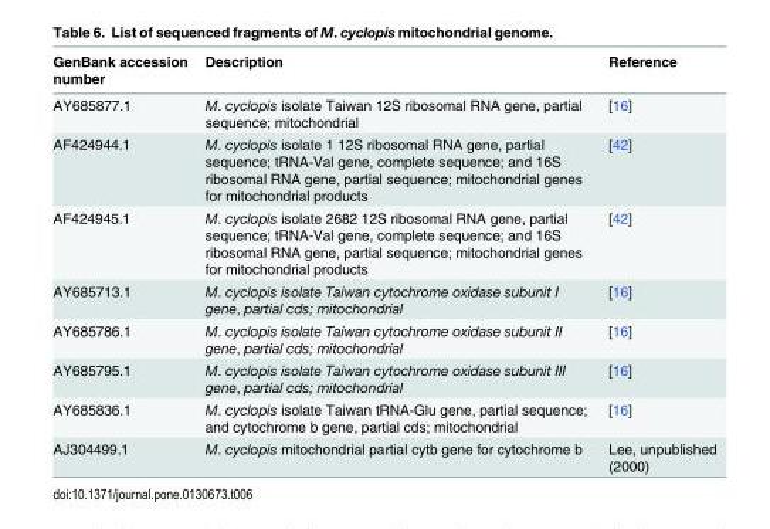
<table><thead><tr><td>GenBank accession number</td><td>Description</td><td>Reference</td></tr></thead><tbody><tr><td>AY685877.1</td><td>M. cyclopis isolate Taiwan 12S ribosomal RNA gene, partial sequence; mitochondrial</td><td>[16]</td></tr><tr><td>AF424944.1</td><td>M. cyclopis isolate 1 12S ribosomal RNA gene, partial sequence; tRNA-Val gene, complete sequence; and 16S ribosomal RNA gene, partial sequence; mitochondrial genes for mitochondrial products</td><td>[42]</td></tr><tr><td>AF424945.1</td><td>M. cyclopis isolate 2682 12S ribosomal RNA gene, partial sequence; tRNA-Val gene, complete sequence; and 16S ribosomal RNA gene, partial sequence; mitochondrial genes for mitochondrial products</td><td>[42]</td></tr><tr><td>AY685713.1</td><td>M. cyclopis isolate Taiwan cytochrome oxidase subunit I gene, partial cds; mitochondrial</td><td>[16]</td></tr><tr><td>AY685786.1</td><td>M. cyclopis isolate Taiwan cytochrome oxidase subunit II gene, partial cds; mitochondrial</td><td>[16]</td></tr><tr><td>AY685795.1</td><td>M. cyclopis isolate Taiwan cytochrome oxidase subunit III gene, partial cds; mitochondrial</td><td>[16]</td></tr><tr><td>AY685836.1</td><td>M. cyclopis isolate Taiwan tRNA-Glu gene, partial sequence; and cytochrome b gene, partial cds; mitochondrial</td><td>[16]</td></tr><tr><td>AJ304499.1</td><td>M. cyclopis mitochondrial partial cytb gene for cytochrome b</td><td>Lee, unpublished (2000)</td></tr></tbody></table>